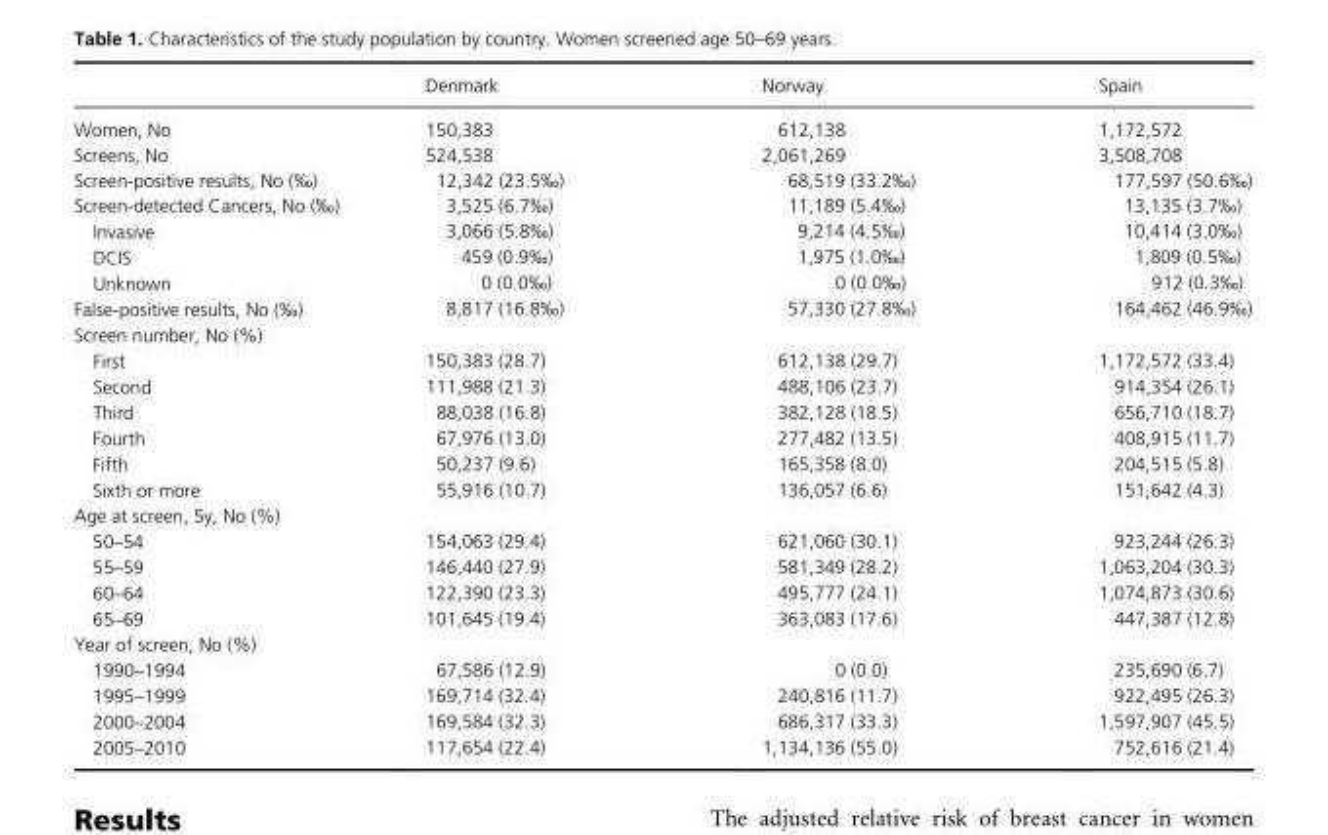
<table><thead><tr><td></td><td>Denmark</td><td>Norway</td><td>Spain</td></tr></thead><tbody><tr><td>Women, No</td><td>150,383</td><td>612,138</td><td>1,172,572</td></tr><tr><td>Screens, No</td><td>524,538</td><td>2,061,269</td><td>3,508,708</td></tr><tr><td>Screen- positive results, No (‰)</td><td>12,342 (23.5‰)</td><td>68,519 (33.2‰)</td><td>177,597 (50.6‰)</td></tr><tr><td>Screen- detected Cancers, No (‰)</td><td>3,525 (6.7‰)</td><td>11,189 (5.4‰)</td><td>13,135 (3.7‰)</td></tr><tr><td>Invasive</td><td>3,066 (5.8‰)</td><td>9,214 (4.5‰)</td><td>10,414 (3.0‰)</td></tr><tr><td>DCIS</td><td>459 (0.9‰)</td><td>1,975 (1.0‰)</td><td>1,809 (0.5‰)</td></tr><tr><td>Unknown</td><td>0 (0.0‰)</td><td>0 (0.0‰)</td><td>912 (0.3‰)</td></tr><tr><td>False- positive results, No (‰)</td><td>8,817 (16.8‰)</td><td>57,330 (27.8‰)</td><td>164,462 (46.9‰)</td></tr><tr><td colspan="4">Screen number, No (%)</td></tr><tr><td>First</td><td>150,383 (28.7)</td><td>612,138 (29.7)</td><td>1,172,572 (33.4)</td></tr><tr><td>Second</td><td>111,988 (21.3)</td><td>488,106 (23.7)</td><td>914,354 (26.1)</td></tr><tr><td>Third</td><td>88,038 (16.8)</td><td>382,128 (18.5)</td><td>656,710 (18.7)</td></tr><tr><td>Fourth</td><td>67,976 (13.0)</td><td>277,482 (13.5)</td><td>408,915 (11.7)</td></tr><tr><td>Fifth</td><td>50,237 (9.6)</td><td>165,358 (8.0)</td><td>204,515 (5.8)</td></tr><tr><td>Sixth or more</td><td>55,916 (10.7)</td><td>136,057 (6.6)</td><td>151,642 (4.3)</td></tr><tr><td colspan="4">Age at screen, 5y, No (%)</td></tr><tr><td>50–54</td><td>154,063 (29.4)</td><td>621,060 (30.1)</td><td>923,244 (26.3)</td></tr><tr><td>55–59</td><td>146,440 (27.9)</td><td>581,349 (28.2)</td><td>1,063,204 (30.3)</td></tr><tr><td>60–64</td><td>122,390 (23.3)</td><td>495,777 (24.1)</td><td>1,074,873 (30.6)</td></tr><tr><td>65–69</td><td>101,645 (19.4)</td><td>363,083 (17.6)</td><td>447,387 (12.8)</td></tr><tr><td colspan="4">Year of screen, No (%)</td></tr><tr><td>1990–1994</td><td>67,586 (12.9)</td><td>0 (0.0)</td><td>235,690 (6.7)</td></tr><tr><td>1995–1999</td><td>169,714 (32.4)</td><td>240,816 (11.7)</td><td>922,495 (26.3)</td></tr><tr><td>2000–2004</td><td>169,584 (32.3)</td><td>686,317 (33.3)</td><td>1,597,907 (45.5)</td></tr><tr><td>2005–2010</td><td>117,654 (22.4)</td><td>1,134,136 (55.0)</td><td>752,616 (21.4)</td></tr></tbody></table>